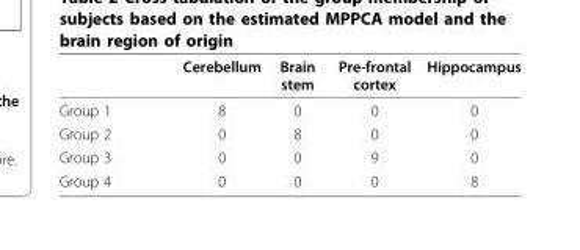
<table><thead><tr><td></td><td>Cerebellum</td><td>Brain stem</td><td>Pre-frontal cortex</td><td>Hippocampus</td></tr></thead><tbody><tr><td>Group 1</td><td>8</td><td>0</td><td>0</td><td>0</td></tr><tr><td>Group 2</td><td>0</td><td>8</td><td>0</td><td>0</td></tr><tr><td>Group 3</td><td>0</td><td>0</td><td>9</td><td>0</td></tr><tr><td>Group 4</td><td>0</td><td>0</td><td>0</td><td>8</td></tr></tbody></table>